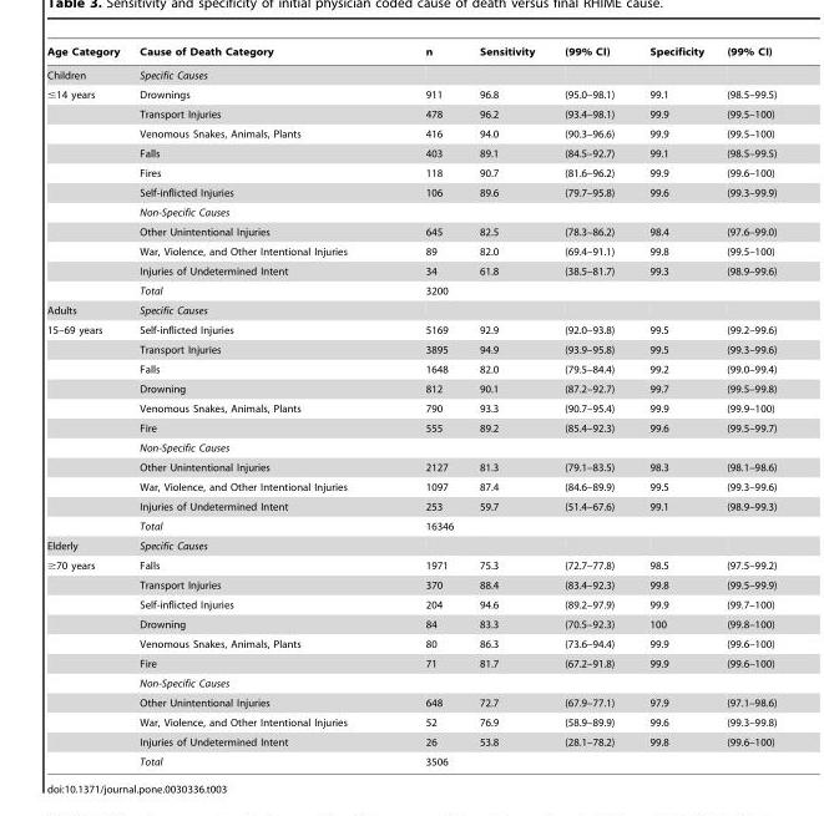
<table><thead><tr><td>Age Category</td><td>Cause of Death Category</td><td>n</td><td>Sensitivity</td><td>(99% CI)</td><td>Specificity</td><td>(99% CI)</td></tr></thead><tbody><tr><td>Children</td><td>Specific Causes</td><td></td><td></td><td></td><td></td><td></td></tr><tr><td rowspan="11">≤14 years</td><td>Drownings</td><td>911</td><td>96.8</td><td>(95.0–98.1)</td><td>99.1</td><td>(98.5–99.5)</td></tr><tr><td>Transport Injuries</td><td>478</td><td>96.2</td><td>(93.4–98.1)</td><td>99.9</td><td>(99.5–100)</td></tr><tr><td>Venomous Snakes, Animals, Plants</td><td>416</td><td>94.0</td><td>(90.3–96.6)</td><td>99.9</td><td>(99.5–100)</td></tr><tr><td>Falls</td><td>403</td><td>89.1</td><td>(84.5–92.7)</td><td>99.1</td><td>(98.5–99.5)</td></tr><tr><td>Fires</td><td>118</td><td>90.7</td><td>(81.6–96.2)</td><td>99.9</td><td>(99.6–100)</td></tr><tr><td>Self-inflicted Injuries</td><td>106</td><td>89.6</td><td>(79.7–95.8)</td><td>99.6</td><td>(99.3–99.9)</td></tr><tr><td>Non-Specific Causes</td><td></td><td></td><td></td><td></td><td></td></tr><tr><td>Other Unintentional Injuries</td><td>645</td><td>82.5</td><td>(78.3–86.2)</td><td>98.4</td><td>(97.6–99.0)</td></tr><tr><td>War, Violence, and Other Intentional Injuries</td><td>89</td><td>82.0</td><td>(69.4–91.1)</td><td>99.8</td><td>(99.5–100)</td></tr><tr><td>Injuries of Undetermined Intent</td><td>34</td><td>61.8</td><td>(38.5–81.7)</td><td>99.3</td><td>(98.9–99.6)</td></tr><tr><td>Total</td><td>3200</td><td></td><td></td><td></td><td></td></tr><tr><td>Adults</td><td>Specific Causes</td><td></td><td></td><td></td><td></td><td></td></tr><tr><td rowspan="11">15–69 years</td><td>Self-inflicted Injuries</td><td>5169</td><td>92.9</td><td>(92.0–93.8)</td><td>99.5</td><td>(99.2–99.6)</td></tr><tr><td>Transport Injuries</td><td>3895</td><td>94.9</td><td>(93.9–95.8)</td><td>99.5</td><td>(99.3–99.6)</td></tr><tr><td>Falls</td><td>1648</td><td>82.0</td><td>(79.5–84.4)</td><td>99.2</td><td>(99.0–99.4)</td></tr><tr><td>Drowning</td><td>812</td><td>90.1</td><td>(87.2–92.7)</td><td>99.7</td><td>(99.5–99.8)</td></tr><tr><td>Venomous Snakes, Animals, Plants</td><td>790</td><td>93.3</td><td>(90.7–95.4)</td><td>99.9</td><td>(99.9–100)</td></tr><tr><td>Fire</td><td>555</td><td>89.2</td><td>(85.4–92.3)</td><td>99.6</td><td>(99.5–99.7)</td></tr><tr><td>Non-Specific Causes</td><td></td><td></td><td></td><td></td><td></td></tr><tr><td>Other Unintentional Injuries</td><td>2127</td><td>81.3</td><td>(79.1–83.5)</td><td>98.3</td><td>(98.1–98.6)</td></tr><tr><td>War, Violence, and Other Intentional Injuries</td><td>1097</td><td>87.4</td><td>(84.6–89.9)</td><td>99.5</td><td>(99.3–99.6)</td></tr><tr><td>Injuries of Undetermined Intent</td><td>253</td><td>59.7</td><td>(51.4–67.6)</td><td>99.1</td><td>(98.9–99.3)</td></tr><tr><td>Total</td><td>16346</td><td></td><td></td><td></td><td></td></tr><tr><td>Elderly</td><td>Specific Causes</td><td></td><td></td><td></td><td></td><td></td></tr><tr><td rowspan="11">≥70 years</td><td>Falls</td><td>1971</td><td>75.3</td><td>(72.7–77.8)</td><td>98.5</td><td>(97.5–99.2)</td></tr><tr><td>Transport Injuries</td><td>370</td><td>88.4</td><td>(83.4–92.3)</td><td>99.8</td><td>(99.5–99.9)</td></tr><tr><td>Self-inflicted Injuries</td><td>204</td><td>94.6</td><td>(89.2–97.9)</td><td>99.9</td><td>(99.7–100)</td></tr><tr><td>Drowning</td><td>84</td><td>83.3</td><td>(70.5–92.3)</td><td>100</td><td>(99.8–100)</td></tr><tr><td>Venomous Snakes, Animals, Plants</td><td>80</td><td>86.3</td><td>(73.6–94.4)</td><td>99.9</td><td>(99.6–100)</td></tr><tr><td>Fire</td><td>71</td><td>81.7</td><td>(67.2–91.8)</td><td>99.9</td><td>(99.6–100)</td></tr><tr><td>Non-Specific Causes</td><td></td><td></td><td></td><td></td><td></td></tr><tr><td>Other Unintentional Injuries</td><td>648</td><td>72.7</td><td>(67.9–77.1)</td><td>97.9</td><td>(97.1–98.6)</td></tr><tr><td>War, Violence, and Other Intentional Injuries</td><td>52</td><td>76.9</td><td>(58.9–89.9)</td><td>99.6</td><td>(99.3–99.8)</td></tr><tr><td>Injuries of Undetermined Intent</td><td>26</td><td>53.8</td><td>(28.1–78.2)</td><td>99.8</td><td>(99.6–100)</td></tr><tr><td>Total</td><td>3506</td><td></td><td></td><td></td><td></td></tr></tbody></table>